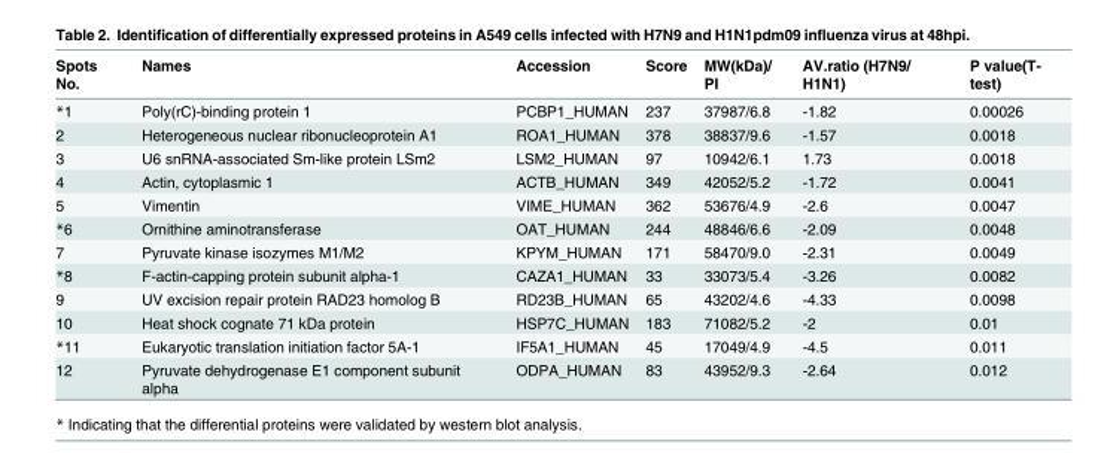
<table><thead><tr><td>Spots No.</td><td>Names</td><td>Accession</td><td>Score</td><td>MW(kDa)/ PI</td><td>AV.ratio (H7N9/ H1N1)</td><td>P value(T- test)</td></tr></thead><tbody><tr><td>*1</td><td>Poly(rC)-binding protein 1</td><td>PCBP1_HUMAN</td><td>237</td><td>37987/6.8</td><td>-1.82</td><td>0.00026</td></tr><tr><td>2</td><td>Heterogeneous nuclear ribonucleoprotein A1</td><td>ROA1_HUMAN</td><td>378</td><td>38837/9.6</td><td>-1.57</td><td>0.0018</td></tr><tr><td>3</td><td>U6 snRNA-associated Sm-like protein LSm2</td><td>LSM2_HUMAN</td><td>97</td><td>10942/6.1</td><td>1.73</td><td>0.0018</td></tr><tr><td>4</td><td>Actin, cytoplasmic 1</td><td>ACTB_HUMAN</td><td>349</td><td>42052/5.2</td><td>-1.72</td><td>0.0041</td></tr><tr><td>5</td><td>Vimentin</td><td>VIME_HUMAN</td><td>362</td><td>53676/4.9</td><td>-2.6</td><td>0.0047</td></tr><tr><td>*6</td><td>Ornithine aminotransferase</td><td>OAT_HUMAN</td><td>244</td><td>48846/6.6</td><td>-2.09</td><td>0.0048</td></tr><tr><td>7</td><td>Pyruvate kinase isozymes M1/M2</td><td>KPYM_HUMAN</td><td>171</td><td>58470/9.0</td><td>-2.31</td><td>0.0049</td></tr><tr><td>*8</td><td>F-actin-capping protein subunit alpha-1</td><td>CAZA1_HUMAN</td><td>33</td><td>33073/5.4</td><td>-3.26</td><td>0.0082</td></tr><tr><td>9</td><td>UV excision repair protein RAD23 homolog B</td><td>RD23B_HUMAN</td><td>65</td><td>43202/4.6</td><td>-4.33</td><td>0.0098</td></tr><tr><td>10</td><td>Heat shock cognate 71 kDa protein</td><td>HSP7C_HUMAN</td><td>183</td><td>71082/5.2</td><td>-2</td><td>0.01</td></tr><tr><td>*11</td><td>Eukaryotic translation initiation factor 5A-1</td><td>IF5A1_HUMAN</td><td>45</td><td>17049/4.9</td><td>-4.5</td><td>0.011</td></tr><tr><td>12</td><td>Pyruvate dehydrogenase E1 component subunit alpha</td><td>ODPA_HUMAN</td><td>83</td><td>43952/9.3</td><td>-2.64</td><td>0.012</td></tr></tbody></table>